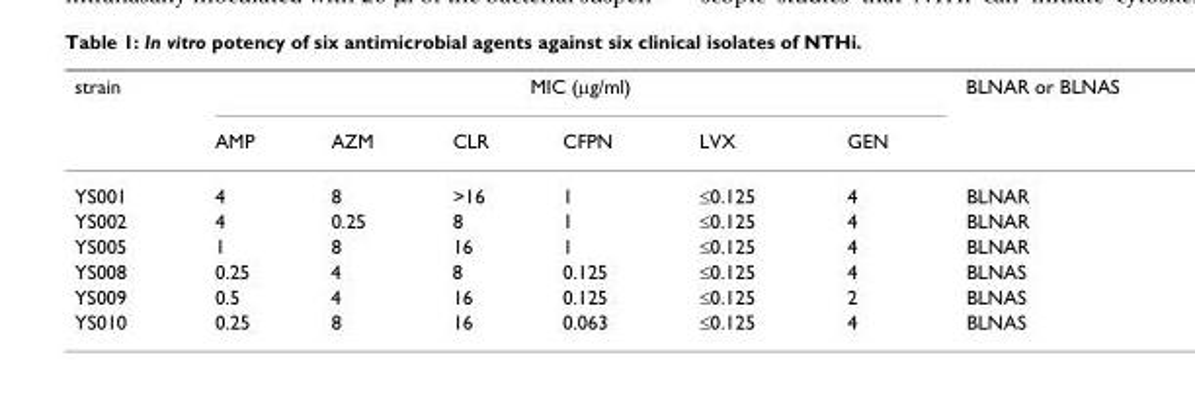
<table><thead><tr><td rowspan="2">strain</td><td colspan="6">MIC (µg/ml)</td><td rowspan="2">BLNAR or BLNAS</td></tr><tr><td>AMP</td><td>AZM</td><td>CLR</td><td>CFPN</td><td>LVX</td><td>GEN</td></tr></thead><tbody><tr><td>YS001</td><td>4</td><td>8</td><td>&gt;16</td><td>1</td><td>≤0.125</td><td>4</td><td>BLNAR</td></tr><tr><td>YS002</td><td>4</td><td>0.25</td><td>8</td><td>1</td><td>≤0.125</td><td>4</td><td>BLNAR</td></tr><tr><td>YS005</td><td>1</td><td>8</td><td>16</td><td>1</td><td>≤0.125</td><td>4</td><td>BLNAR</td></tr><tr><td>YS008</td><td>0.25</td><td>4</td><td>8</td><td>0.125</td><td>≤0.125</td><td>4</td><td>BLNAS</td></tr><tr><td>YS009</td><td>0.5</td><td>4</td><td>16</td><td>0.125</td><td>≤0.125</td><td>2</td><td>BLNAS</td></tr><tr><td>YS010</td><td>0.25</td><td>8</td><td>16</td><td>0.063</td><td>≤0.125</td><td>4</td><td>BLNAS</td></tr></tbody></table>